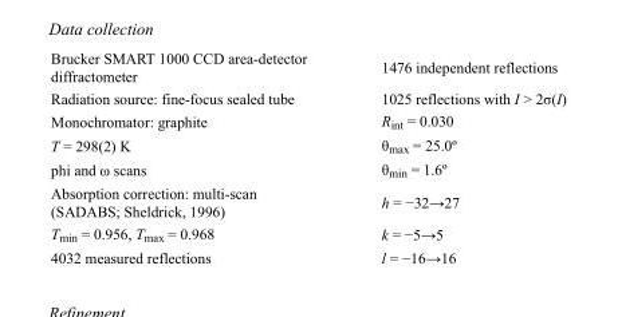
<table><tbody><tr><td>Brucker SMART 1000 CCD area-detector diffractometer</td><td>1476 independent reflections</td></tr><tr><td>Radiation source: fine-focus sealed tube</td><td>1025 reflections with I &gt; 2σ(I)</td></tr><tr><td>Monochromator: graphite</td><td>R<sub>int</sub> = 0.030</td></tr><tr><td>T = 298(2) K</td><td>θ<sub>max</sub> = 25.0º</td></tr><tr><td>phi and ω scans</td><td>θ<sub>min</sub> = 1.6º</td></tr><tr><td>Absorption correction: multi-scan (SADABS; Sheldrick, 1996)</td><td>h = −32→27</td></tr><tr><td>T<sub>min</sub> = 0.956, T<sub>max</sub> = 0.968</td><td>k = −5→5</td></tr><tr><td>4032 measured reflections</td><td>l = −16→16</td></tr></tbody></table>